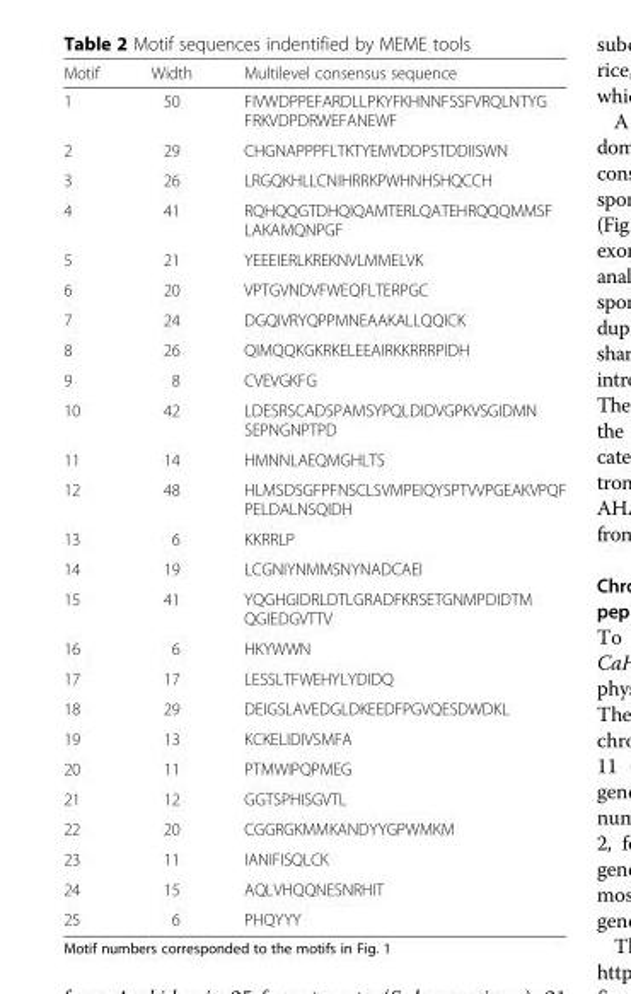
<table><thead><tr><td>Motif</td><td>Width</td><td>Multilevel consensus sequence</td></tr></thead><tbody><tr><td>1</td><td>50</td><td>FIVWDPPEFARDLLPKYFKHNNFSSFVRQLNTYG FRKVDPDRWEFANEWF</td></tr><tr><td>2</td><td>29</td><td>CHGNAPPPFLTKTYEMVDDPSTDDIISWN</td></tr><tr><td>3</td><td>26</td><td>LRGQKHLLCNIHRRKPWHNHSHQCCH</td></tr><tr><td>4</td><td>41</td><td>RQHQQGTDHQIQAMTERLQATEHRQQQMMSF LAKAMQNPGF</td></tr><tr><td>5</td><td>21</td><td>YEEEIERLKREKNVLMMELVK</td></tr><tr><td>6</td><td>20</td><td>VPTGVNDVFWEQFLTERPGC</td></tr><tr><td>7</td><td>24</td><td>DGQIVRYQPPMNEAAKALLQQICK</td></tr><tr><td>8</td><td>26</td><td>QIMQQKGKRKELEEAIRKKRRRPIDH</td></tr><tr><td>9</td><td>8</td><td>CVEVGKFG</td></tr><tr><td>10</td><td>42</td><td>LDESRSCADSPAMSYPQLDIDVGPKVSGIDMN SEPNGNPTPD</td></tr><tr><td>11</td><td>14</td><td>HMNNLAEQMGHLTS</td></tr><tr><td>12</td><td>48</td><td>HLMSDSGFPFNSCLSVMPEIQYSPTVVPGEAKVPQF PELDALNSQIDH</td></tr><tr><td>13</td><td>6</td><td>KKRRLP</td></tr><tr><td>14</td><td>19</td><td>LCGNIYNMMSNYNADCAEI</td></tr><tr><td>15</td><td>41</td><td>YQGHGIDRLDTLGRADFKRSETGNMPDIDTM QGIEDGVTTV</td></tr><tr><td>16</td><td>6</td><td>HKYWWN</td></tr><tr><td>17</td><td>17</td><td>LESSLTFWEHYLYDIDQ</td></tr><tr><td>18</td><td>29</td><td>DEIGSLAVEDGLDKEEDFPGVQESDWDKL</td></tr><tr><td>19</td><td>13</td><td>KCKELIDIVSMFA</td></tr><tr><td>20</td><td>11</td><td>PTMWIPQPMEG</td></tr><tr><td>21</td><td>12</td><td>GGTSPHISGVTL</td></tr><tr><td>22</td><td>20</td><td>CGGRGKMMKANDYYGPWMKM</td></tr><tr><td>23</td><td>11</td><td>IANIFISQLCK</td></tr><tr><td>24</td><td>15</td><td>AQLVHQQNESNRHIT</td></tr><tr><td>25</td><td>6</td><td>PHQYYY</td></tr></tbody></table>